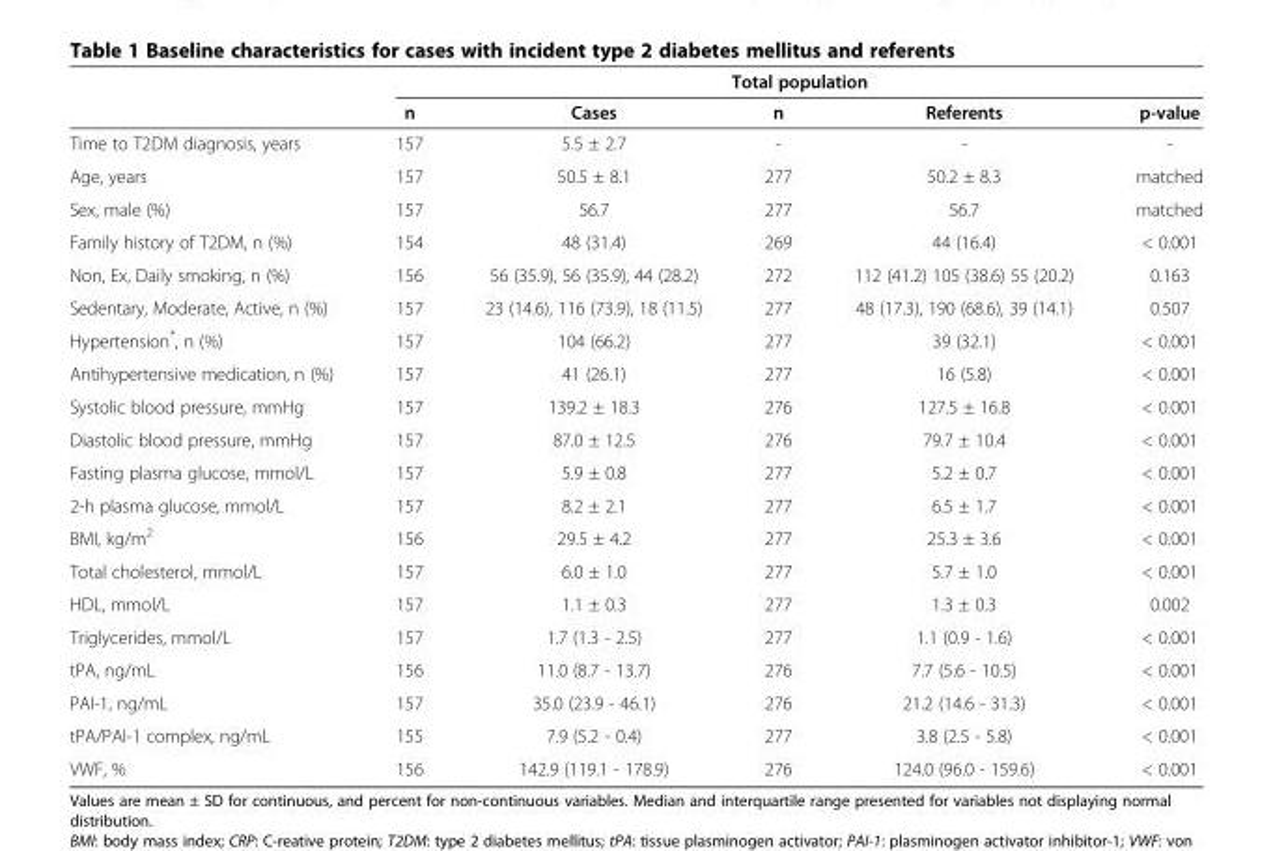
<table><thead><tr><td rowspan="2"></td><td colspan="5">Total population</td></tr><tr><td>n</td><td>Cases</td><td>n</td><td>Referents</td><td>p-value</td></tr></thead><tbody><tr><td>Time to T2DM diagnosis, years</td><td>157</td><td>5.5 ± 2.7</td><td>-</td><td>-</td><td>-</td></tr><tr><td>Age, years</td><td>157</td><td>50.5 ± 8.1</td><td>277</td><td>50.2 ± 8.3</td><td>matched</td></tr><tr><td>Sex, male (%)</td><td>157</td><td>56.7</td><td>277</td><td>56.7</td><td>matched</td></tr><tr><td>Family history of T2DM, n (%)</td><td>154</td><td>48 (31.4)</td><td>269</td><td>44 (16.4)</td><td>&lt; 0.001</td></tr><tr><td>Non, Ex, Daily smoking, n (%)</td><td>156</td><td>56 (35.9), 56 (35.9), 44 (28.2)</td><td>272</td><td>112 (41.2) 105 (38.6) 55 (20.2)</td><td>0.163</td></tr><tr><td>Sedentary, Moderate, Active, n (%)</td><td>157</td><td>23 (14.6), 116 (73.9), 18 (11.5)</td><td>277</td><td>48 (17.3), 190 (68.6), 39 (14.1)</td><td>0.507</td></tr><tr><td>Hypertension*, n (%)</td><td>157</td><td>104 (66.2)</td><td>277</td><td>39 (32.1)</td><td>&lt; 0.001</td></tr><tr><td>Antihypertensive medication, n (%)</td><td>157</td><td>41 (26.1)</td><td>277</td><td>16 (5.8)</td><td>&lt; 0.001</td></tr><tr><td>Systolic blood pressure, mmHg</td><td>157</td><td>139.2 ± 18.3</td><td>276</td><td>127.5 ± 16.8</td><td>&lt; 0.001</td></tr><tr><td>Diastolic blood pressure, mmHg</td><td>157</td><td>87.0 ± 12.5</td><td>276</td><td>79.7 ± 10.4</td><td>&lt; 0.001</td></tr><tr><td>Fasting plasma glucose, mmol/L</td><td>157</td><td>5.9 ± 0.8</td><td>277</td><td>5.2 ± 0.7</td><td>&lt; 0.001</td></tr><tr><td>2-h plasma glucose, mmol/L</td><td>157</td><td>8.2 ± 2.1</td><td>277</td><td>6.5 ± 1.7</td><td>&lt; 0.001</td></tr><tr><td>BMI, kg/m<sup>2</sup></td><td>156</td><td>29.5 ± 4.2</td><td>277</td><td>25.3 ± 3.6</td><td>&lt; 0.001</td></tr><tr><td>Total cholesterol, mmol/L</td><td>157</td><td>6.0 ± 1.0</td><td>277</td><td>5.7 ± 1.0</td><td>&lt; 0.001</td></tr><tr><td>HDL, mmol/L</td><td>157</td><td>1.1 ± 0.3</td><td>277</td><td>1.3 ± 0.3</td><td>0.002</td></tr><tr><td>Triglycerides, mmol/L</td><td>157</td><td>1.7 (1.3 - 2.5)</td><td>277</td><td>1.1 (0.9 - 1.6)</td><td>&lt; 0.001</td></tr><tr><td>tPA, ng/mL</td><td>156</td><td>11.0 (8.7 - 13.7)</td><td>276</td><td>7.7 (5.6 - 10.5)</td><td>&lt; 0.001</td></tr><tr><td>PAI-1, ng/mL</td><td>157</td><td>35.0 (23.9 - 46.1)</td><td>276</td><td>21.2 (14.6 - 31.3)</td><td>&lt; 0.001</td></tr><tr><td>tPA/PAI-1 complex, ng/mL</td><td>155</td><td>7.9 (5.2 - 0.4)</td><td>277</td><td>3.8 (2.5 - 5.8)</td><td>&lt; 0.001</td></tr><tr><td>VWF, %</td><td>156</td><td>142.9 (119.1 - 178.9)</td><td>276</td><td>124.0 (96.0 - 159.6)</td><td>&lt; 0.001</td></tr></tbody></table>